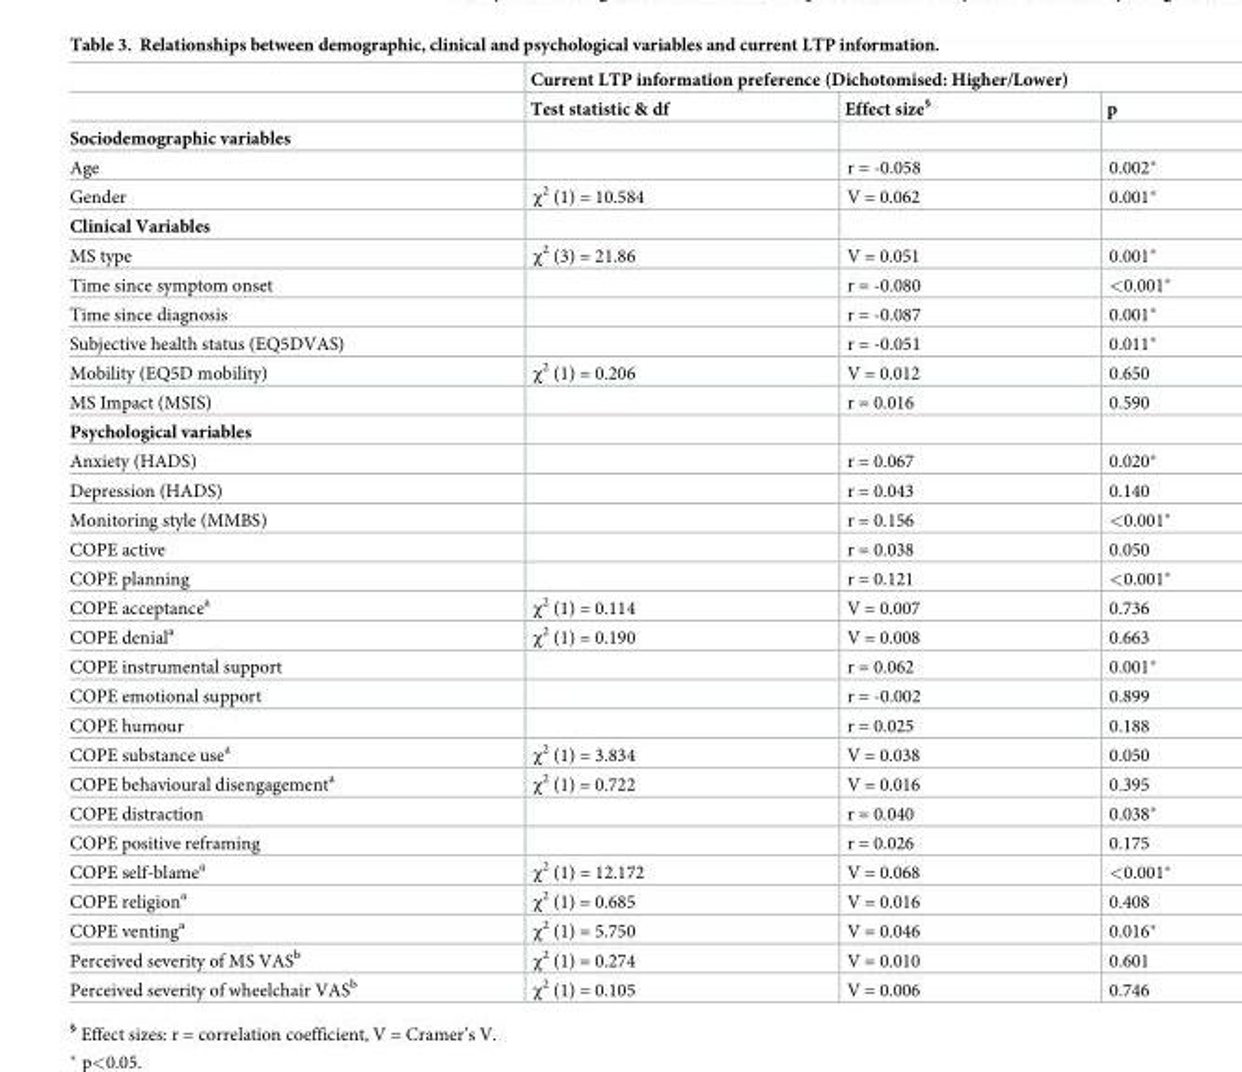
<table><thead><tr><td rowspan="2"></td><td colspan="3">Current LTP information preference (Dichotomised: Higher/Lower)</td></tr><tr><td>Test statistic &amp; df</td><td>Effect size<sup>§</sup></td><td>p</td></tr></thead><tbody><tr><td colspan="4">Sociodemographic variables</td></tr><tr><td>Age</td><td></td><td>r = -0.058</td><td>0.002*</td></tr><tr><td>Gender</td><td>χ<sup>2</sup> (1) = 10.584</td><td>V = 0.062</td><td>0.001*</td></tr><tr><td colspan="4">Clinical Variables</td></tr><tr><td>MS type</td><td>χ<sup>2</sup> (3) = 21.86</td><td>V = 0.051</td><td>0.001*</td></tr><tr><td>Time since symptom onset</td><td></td><td>r = -0.080</td><td>&lt;0.001*</td></tr><tr><td>Time since diagnosis</td><td></td><td>r = -0.087</td><td>0.001*</td></tr><tr><td>Subjective health status (EQ5DVAS)</td><td></td><td>r = -0.051</td><td>0.011*</td></tr><tr><td>Mobility (EQ5D mobility)</td><td>χ<sup>2</sup> (1) = 0.206</td><td>V = 0.012</td><td>0.650</td></tr><tr><td>MS Impact (MSIS)</td><td></td><td>r = 0.016</td><td>0.590</td></tr><tr><td colspan="4">Psychological variables</td></tr><tr><td>Anxiety (HADS)</td><td></td><td>r = 0.067</td><td>0.020*</td></tr><tr><td>Depression (HADS)</td><td></td><td>r = 0.043</td><td>0.140</td></tr><tr><td>Monitoring style (MMBS)</td><td></td><td>r = 0.156</td><td>&lt;0.001*</td></tr><tr><td>COPE active</td><td></td><td>r = 0.038</td><td>0.050</td></tr><tr><td>COPE planning</td><td></td><td>r = 0.121</td><td>&lt;0.001*</td></tr><tr><td>COPE acceptance<sup>a</sup></td><td>χ<sup>2</sup> (1) = 0.114</td><td>V = 0.007</td><td>0.736</td></tr><tr><td>COPE denial<sup>a</sup></td><td>χ<sup>2</sup> (1) = 0.190</td><td>V = 0.008</td><td>0.663</td></tr><tr><td>COPE instrumental support</td><td></td><td>r = 0.062</td><td>0.001*</td></tr><tr><td>COPE emotional support</td><td></td><td>r = -0.002</td><td>0.899</td></tr><tr><td>COPE humour</td><td></td><td>r = 0.025</td><td>0.188</td></tr><tr><td>COPE substance use<sup>a</sup></td><td>χ<sup>2</sup> (1) = 3.834</td><td>V = 0.038</td><td>0.050</td></tr><tr><td>COPE behavioural disengagement<sup>a</sup></td><td>χ<sup>2</sup> (1) = 0.722</td><td>V = 0.016</td><td>0.395</td></tr><tr><td>COPE distraction</td><td></td><td>r = 0.040</td><td>0.038*</td></tr><tr><td>COPE positive reframing</td><td></td><td>r = 0.026</td><td>0.175</td></tr><tr><td>COPE self-blame<sup>a</sup></td><td>χ<sup>2</sup> (1) = 12.172</td><td>V = 0.068</td><td>&lt;0.001*</td></tr><tr><td>COPE religion<sup>a</sup></td><td>χ<sup>2</sup> (1) = 0.685</td><td>V = 0.016</td><td>0.408</td></tr><tr><td>COPE venting<sup>a</sup></td><td>χ<sup>2</sup> (1) = 5.750</td><td>V = 0.046</td><td>0.016*</td></tr><tr><td>Perceived severity of MS VAS<sup>b</sup></td><td>χ<sup>2</sup> (1) = 0.274</td><td>V = 0.010</td><td>0.601</td></tr><tr><td>Perceived severity of wheelchair VAS<sup>b</sup></td><td>χ<sup>2</sup> (1) = 0.105</td><td>V = 0.006</td><td>0.746</td></tr></tbody></table>